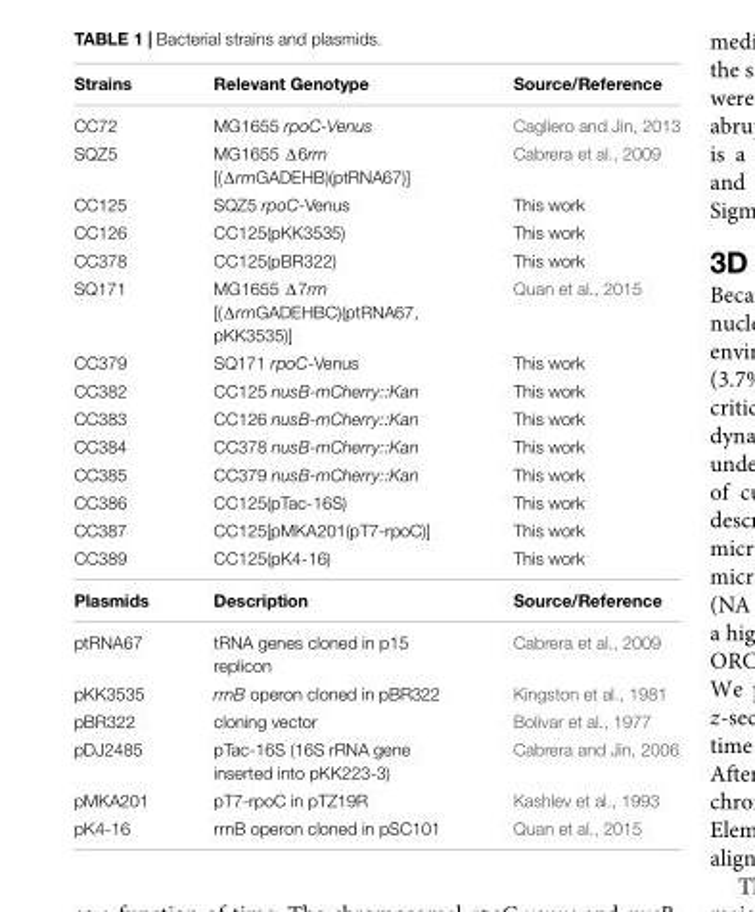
<table><thead><tr><td>Strains</td><td>Relevant Genotype</td><td>Source/Reference</td></tr></thead><tbody><tr><td>CC72</td><td>MG1655 rpoC-Venus</td><td>Cagliero and Jin, 2013</td></tr><tr><td>SQZ5</td><td>MG1655 Δ6rrn [(ΔrrnGADEHB)(ptRNA67)]</td><td>Cabrera et al., 2009</td></tr><tr><td>CC125</td><td>SQZ5 rpoC-Venus</td><td>This work</td></tr><tr><td>CC126</td><td>CC125(pKK3535)</td><td>This work</td></tr><tr><td>CC378</td><td>CC125(pBR322)</td><td>This work</td></tr><tr><td>SQ171</td><td>MG1655 Δ7rrn [(ΔrrnGADEHBC)(ptRNA67, pKK3535)]</td><td>Quan et al., 2015</td></tr><tr><td>CC379</td><td>SQ171 rpoC-Venus</td><td>This work</td></tr><tr><td>CC382</td><td>CC125 nusB-mCherry::Kan</td><td>This work</td></tr><tr><td>CC383</td><td>CC126 nusB-mCherry::Kan</td><td>This work</td></tr><tr><td>CC384</td><td>CC378 nusB-mCherry::Kan</td><td>This work</td></tr><tr><td>CC385</td><td>CC379 nusB-mCherry::Kan</td><td>This work</td></tr><tr><td>CC386</td><td>CC125(pTac-16S)</td><td>This work</td></tr><tr><td>CC387</td><td>CC125[pMKA201(pT7-rpoC)]</td><td>This work</td></tr><tr><td>CC389</td><td>CC125(pK4-16)</td><td>This work</td></tr><tr><td>Plasmids</td><td>Description</td><td>Source/Reference</td></tr><tr><td>ptRNA67</td><td>tRNA genes cloned in p15 replicon</td><td>Cabrera et al., 2009</td></tr><tr><td>pKK3535</td><td>rrnB operon cloned in pBR322</td><td>Kingston et al., 1981</td></tr><tr><td>pBR322</td><td>cloning vector</td><td>Bolivar et al., 1977</td></tr><tr><td>pDJ2485</td><td>pTac-16S (16S rRNA gene inserted into pKK223-3)</td><td>Cabrera and Jin, 2006</td></tr><tr><td>pMKA201</td><td>pT7-rpoC in pTZ19R</td><td>Kashlev et al., 1993</td></tr><tr><td>pK4-16</td><td>rrnB operon cloned in pSC101</td><td>Quan et al., 2015</td></tr></tbody></table>